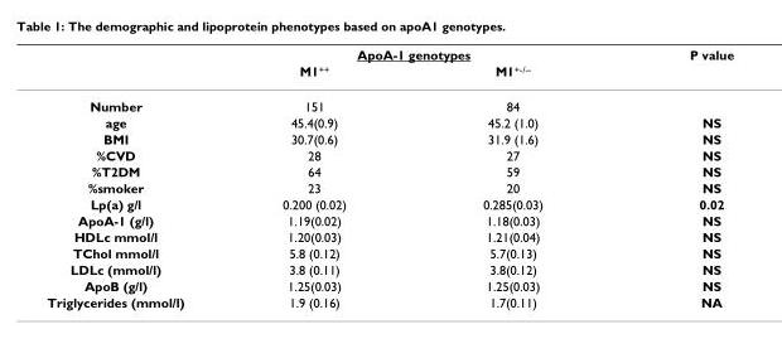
<table><thead><tr><td rowspan="2"></td><td colspan="2">ApoA-1 genotypes</td><td rowspan="2">P value</td></tr><tr><td>M1<sup>++</sup></td><td>M1<sup>+-/--</sup></td></tr></thead><tbody><tr><td>Number</td><td>151</td><td>84</td><td></td></tr><tr><td>age</td><td>45.4(0.9)</td><td>45.2 (1.0)</td><td>NS</td></tr><tr><td>BMI</td><td>30.7(0.6)</td><td>31.9 (1.6)</td><td>NS</td></tr><tr><td>%CVD</td><td>28</td><td>27</td><td>NS</td></tr><tr><td>%T2DM</td><td>64</td><td>59</td><td>NS</td></tr><tr><td>%smoker</td><td>23</td><td>20</td><td>NS</td></tr><tr><td>Lp(a) g/l</td><td>0.200 (0.02)</td><td>0.285(0.03)</td><td>0.02</td></tr><tr><td>ApoA-1 (g/l)</td><td>1.19(0.02)</td><td>1.18(0.03)</td><td>NS</td></tr><tr><td>HDLc mmol/l</td><td>1.20(0.03)</td><td>1.21(0.04)</td><td>NS</td></tr><tr><td>TChol mmol/l</td><td>5.8 (0.12)</td><td>5.7(0.13)</td><td>NS</td></tr><tr><td>LDLc (mmol/l)</td><td>3.8 (0.11)</td><td>3.8(0.12)</td><td>NS</td></tr><tr><td>ApoB (g/l)</td><td>1.25(0.03)</td><td>1.25(0.03)</td><td>NS</td></tr><tr><td>Triglycerides (mmol/l)</td><td>1.9 (0.16)</td><td>1.7(0.11)</td><td>NA</td></tr></tbody></table>